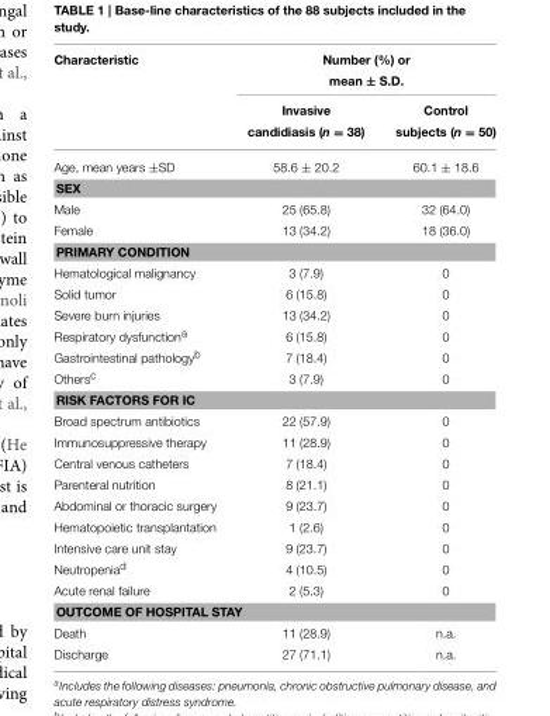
<table><thead><tr><td rowspan="3">Characteristic</td><td colspan="2">Number (%) or mean ± S.D.</td></tr><tr><td rowspan="2">Invasive candidiasis (n = 38)</td><td rowspan="2">Control subjects (n = 50)</td></tr><tr></tr></thead><tbody><tr><td>Age, mean years ±SD</td><td>58.6 ± 20.2</td><td>60.1 ± 18.6</td></tr><tr><td colspan="3">SEX</td></tr><tr><td>Male</td><td>25 (65.8)</td><td>32 (64.0)</td></tr><tr><td>Female</td><td>13 (34.2)</td><td>18 (36.0)</td></tr><tr><td colspan="3">PRIMARY CONDITION</td></tr><tr><td>Hematological malignancy</td><td>3 (7.9)</td><td>0</td></tr><tr><td>Solid tumor</td><td>6 (15.8)</td><td>0</td></tr><tr><td>Severe burn injuries</td><td>13 (34.2)</td><td>0</td></tr><tr><td>Respiratory dysfunction<sup>a</sup></td><td>6 (15.8)</td><td>0</td></tr><tr><td>Gastrointestinal pathology<sup>b</sup></td><td>7 (18.4)</td><td>0</td></tr><tr><td>Others<sup>c</sup></td><td>3 (7.9)</td><td>0</td></tr><tr><td colspan="3">RISK FACTORS FOR IC</td></tr><tr><td>Broad spectrum antibiotics</td><td>22 (57.9)</td><td>0</td></tr><tr><td>Immunosuppressive therapy</td><td>11 (28.9)</td><td>0</td></tr><tr><td>Central venous catheters</td><td>7 (18.4)</td><td>0</td></tr><tr><td>Parenteral nutrition</td><td>8 (21.1)</td><td>0</td></tr><tr><td>Abdominal or thoracic surgery</td><td>9 (23.7)</td><td>0</td></tr><tr><td>Hematopoietic transplantation</td><td>1 (2.6)</td><td>0</td></tr><tr><td>Intensive care unit stay</td><td>9 (23.7)</td><td>0</td></tr><tr><td>Neutropenia<sup>d</sup></td><td>4 (10.5)</td><td>0</td></tr><tr><td>Acute renal failure</td><td>2 (5.3)</td><td>0</td></tr><tr><td colspan="3">OUTCOME OF HOSPITAL STAY</td></tr><tr><td>Death</td><td>11 (28.9)</td><td>n.a.</td></tr><tr><td>Discharge</td><td>27 (71.1)</td><td>n.a.</td></tr></tbody></table>